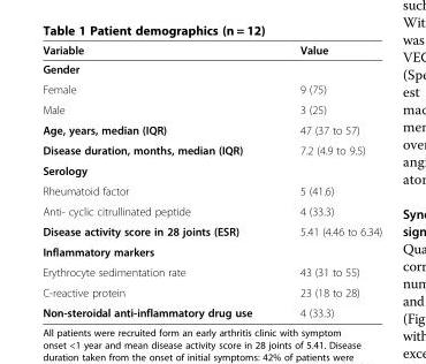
<table><thead><tr><td>Variable</td><td>Value</td></tr></thead><tbody><tr><td colspan="2">Gender</td></tr><tr><td>Female</td><td>9 (75)</td></tr><tr><td>Male</td><td>3 (25)</td></tr><tr><td>Age, years, median (IQR)</td><td>47 (37 to 57)</td></tr><tr><td>Disease duration, months, median (IQR)</td><td>7.2 (4.9 to 9.5)</td></tr><tr><td colspan="2">Serology</td></tr><tr><td>Rheumatoid factor</td><td>5 (41.6)</td></tr><tr><td>Anti- cyclic citrullinated peptide</td><td>4 (33.3)</td></tr><tr><td>Disease activity score in 28 joints (ESR)</td><td>5.41 (4.46 to 6.34)</td></tr><tr><td colspan="2">Inflammatory markers</td></tr><tr><td>Erythrocyte sedimentation rate</td><td>43 (31 to 55)</td></tr><tr><td>C-reactive protein</td><td>23 (18 to 28)</td></tr><tr><td>Non-steroidal anti-inflammatory drug use</td><td>4 (33.3)</td></tr></tbody></table>